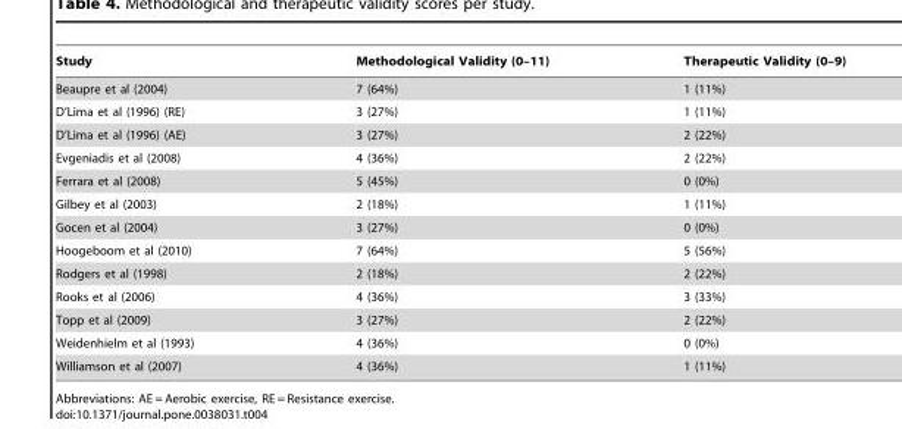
<table><thead><tr><td>Study</td><td>Methodological Validity (0–11)</td><td>Therapeutic Validity (0–9)</td></tr></thead><tbody><tr><td>Beaupre et al (2004)</td><td>7 (64%)</td><td>1 (11%)</td></tr><tr><td>D’Lima et al (1996) (RE)</td><td>3 (27%)</td><td>1 (11%)</td></tr><tr><td>D’Lima et al (1996) (AE)</td><td>3 (27%)</td><td>2 (22%)</td></tr><tr><td>Evgeniadis et al (2008)</td><td>4 (36%)</td><td>2 (22%)</td></tr><tr><td>Ferrara et al (2008)</td><td>5 (45%)</td><td>0 (0%)</td></tr><tr><td>Gilbey et al (2003)</td><td>2 (18%)</td><td>1 (11%)</td></tr><tr><td>Gocen et al (2004)</td><td>3 (27%)</td><td>0 (0%)</td></tr><tr><td>Hoogeboom et al (2010)</td><td>7 (64%)</td><td>5 (56%)</td></tr><tr><td>Rodgers et al (1998)</td><td>2 (18%)</td><td>2 (22%)</td></tr><tr><td>Rooks et al (2006)</td><td>4 (36%)</td><td>3 (33%)</td></tr><tr><td>Topp et al (2009)</td><td>3 (27%)</td><td>2 (22%)</td></tr><tr><td>Weidenhielm et al (1993)</td><td>4 (36%)</td><td>0 (0%)</td></tr><tr><td>Williamson et al (2007)</td><td>4 (36%)</td><td>1 (11%)</td></tr></tbody></table>